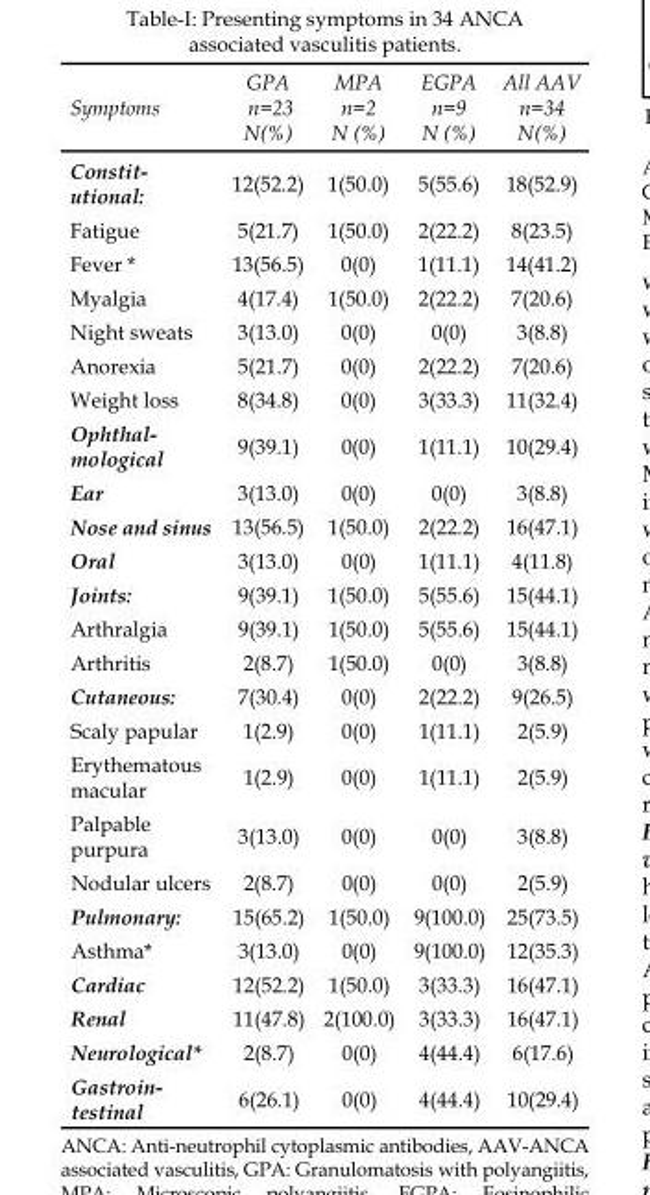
<table><thead><tr><td>Symptoms</td><td>GPA n=23 N(%)</td><td>MPA n=2 N (%)</td><td>EGPA n=9 N (%)</td><td>All AAV n=34 N(%)</td></tr></thead><tbody><tr><td>Constit- utional:</td><td>12(52.2)</td><td>1(50.0)</td><td>5(55.6)</td><td>18(52.9)</td></tr><tr><td>Fatigue</td><td>5(21.7)</td><td>1(50.0)</td><td>2(22.2)</td><td>8(23.5)</td></tr><tr><td>Fever *</td><td>13(56.5)</td><td>0(0)</td><td>1(11.1)</td><td>14(41.2)</td></tr><tr><td>Myalgia</td><td>4(17.4)</td><td>1(50.0)</td><td>2(22.2)</td><td>7(20.6)</td></tr><tr><td>Night sweats</td><td>3(13.0)</td><td>0(0)</td><td>0(0)</td><td>3(8.8)</td></tr><tr><td>Anorexia</td><td>5(21.7)</td><td>0(0)</td><td>2(22.2)</td><td>7(20.6)</td></tr><tr><td>Weight loss</td><td>8(34.8)</td><td>0(0)</td><td>3(33.3)</td><td>11(32.4)</td></tr><tr><td>Ophthal- mological</td><td>9(39.1)</td><td>0(0)</td><td>1(11.1)</td><td>10(29.4)</td></tr><tr><td>Ear</td><td>3(13.0)</td><td>0(0)</td><td>0(0)</td><td>3(8.8)</td></tr><tr><td>Nose and sinus</td><td>13(56.5)</td><td>1(50.0)</td><td>2(22.2)</td><td>16(47.1)</td></tr><tr><td>Oral</td><td>3(13.0)</td><td>0(0)</td><td>1(11.1)</td><td>4(11.8)</td></tr><tr><td>Joints:</td><td>9(39.1)</td><td>1(50.0)</td><td>5(55.6)</td><td>15(44.1)</td></tr><tr><td>Arthralgia</td><td>9(39.1)</td><td>1(50.0)</td><td>5(55.6)</td><td>15(44.1)</td></tr><tr><td>Arthritis</td><td>2(8.7)</td><td>1(50.0)</td><td>0(0)</td><td>3(8.8)</td></tr><tr><td>Cutaneous:</td><td>7(30.4)</td><td>0(0)</td><td>2(22.2)</td><td>9(26.5)</td></tr><tr><td>Scaly papular</td><td>1(2.9)</td><td>0(0)</td><td>1(11.1)</td><td>2(5.9)</td></tr><tr><td>Erythematous macular</td><td>1(2.9)</td><td>0(0)</td><td>1(11.1)</td><td>2(5.9)</td></tr><tr><td>Palpable purpura</td><td>3(13.0)</td><td>0(0)</td><td>0(0)</td><td>3(8.8)</td></tr><tr><td>Nodular ulcers</td><td>2(8.7)</td><td>0(0)</td><td>0(0)</td><td>2(5.9)</td></tr><tr><td>Pulmonary:</td><td>15(65.2)</td><td>1(50.0)</td><td>9(100.0)</td><td>25(73.5)</td></tr><tr><td>Asthma*</td><td>3(13.0)</td><td>0(0)</td><td>9(100.0)</td><td>12(35.3)</td></tr><tr><td>Cardiac</td><td>12(52.2)</td><td>1(50.0)</td><td>3(33.3)</td><td>16(47.1)</td></tr><tr><td>Renal</td><td>11(47.8)</td><td>2(100.0)</td><td>3(33.3)</td><td>16(47.1)</td></tr><tr><td>Neurological*</td><td>2(8.7)</td><td>0(0)</td><td>4(44.4)</td><td>6(17.6)</td></tr><tr><td>Gastroin- testinal</td><td>6(26.1)</td><td>0(0)</td><td>4(44.4)</td><td>10(29.4)</td></tr></tbody></table>